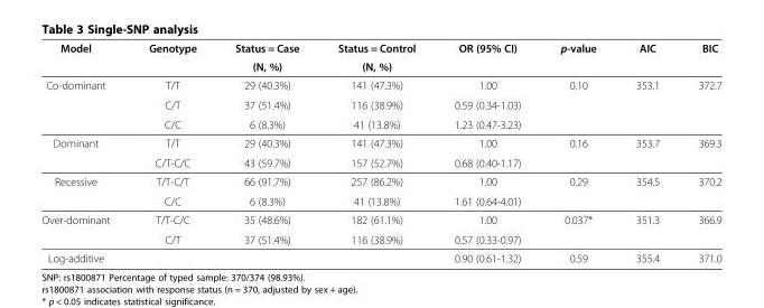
<table><thead><tr><td rowspan="2">Model</td><td rowspan="2">Genotype</td><td rowspan="2">Status = Case (N, %)</td><td rowspan="2">Status = Control (N, %)</td><td rowspan="2">OR (95% CI)</td><td rowspan="2">p-value</td><td rowspan="2">AIC</td><td rowspan="2">BIC</td></tr><tr></tr></thead><tbody><tr><td rowspan="3">Co-dominant</td><td>T/T</td><td>29 (40.3%)</td><td>141 (47.3%)</td><td>1.00</td><td>0.10</td><td>353.1</td><td>372.7</td></tr><tr><td>C/T</td><td>37 (51.4%)</td><td>116 (38.9%)</td><td>0.59 (0.34-1.03)</td><td></td><td></td><td></td></tr><tr><td>C/C</td><td>6 (8.3%)</td><td>41 (13.8%)</td><td>1.23 (0.47-3.23)</td><td></td><td></td><td></td></tr><tr><td rowspan="2">Dominant</td><td>T/T</td><td>29 (40.3%)</td><td>141 (47.3%)</td><td>1.00</td><td>0.16</td><td>353.7</td><td>369.3</td></tr><tr><td>C/T-C/C</td><td>43 (59.7%)</td><td>157 (52.7%)</td><td>0.68 (0.40-1.17)</td><td></td><td></td><td></td></tr><tr><td rowspan="2">Recessive</td><td>T/T-C/T</td><td>66 (91.7%)</td><td>257 (86.2%)</td><td>1.00</td><td>0.29</td><td>354.5</td><td>370.2</td></tr><tr><td>C/C</td><td>6 (8.3%)</td><td>41 (13.8%)</td><td>1.61 (0.64-4.01)</td><td></td><td></td><td></td></tr><tr><td rowspan="2">Over-dominant</td><td>T/T-C/C</td><td>35 (48.6%)</td><td>182 (61.1%)</td><td>1.00</td><td>0.037*</td><td>351.3</td><td>366.9</td></tr><tr><td>C/T</td><td>37 (51.4%)</td><td>116 (38.9%)</td><td>0.57 (0.33-0.97)</td><td></td><td></td><td></td></tr><tr><td>Log-additive</td><td></td><td></td><td></td><td>0.90 (0.61-1.32)</td><td>0.59</td><td>355.4</td><td>371.0</td></tr></tbody></table>